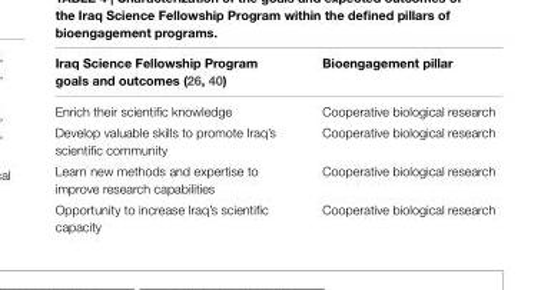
<table><thead><tr><td>iraq science Fellowship Program goals and outcomes (26, 40)</td><td>Bioengagement pillar</td></tr></thead><tbody><tr><td>Enrich their scientific knowledge</td><td>Cooperative biological research</td></tr><tr><td>Develop valuable skills to promote Iraq’s scientific community</td><td>Cooperative biological research</td></tr><tr><td>Learn new methods and expertise to improve research capabilities</td><td>Cooperative biological research</td></tr><tr><td>Opportunity to increase Iraq’s scientific capacity</td><td>Cooperative biological research</td></tr></tbody></table>